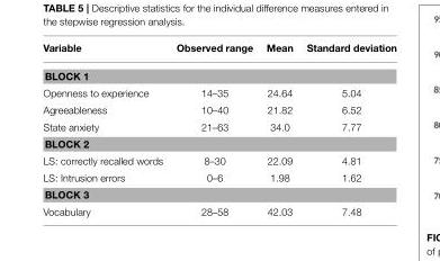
<table><thead><tr><td>Variable</td><td>Observed range</td><td>Mean</td><td>Standard deviation</td></tr></thead><tbody><tr><td colspan="4">BLOCK 1</td></tr><tr><td>Openness to experience</td><td>14–35</td><td>24.64</td><td>5.04</td></tr><tr><td>Agreeableness</td><td>10–40</td><td>21.82</td><td>6.52</td></tr><tr><td>State anxiety</td><td>21–63</td><td>34.0</td><td>7.77</td></tr><tr><td colspan="4">BLOCK 2</td></tr><tr><td>LS: correctly recalled words</td><td>8–30</td><td>22.09</td><td>4.81</td></tr><tr><td>LS: Intrusion errors</td><td>0–6</td><td>1.98</td><td>1.62</td></tr><tr><td colspan="4">BLOCK 3</td></tr><tr><td>Vocabulary</td><td>28–58</td><td>42.03</td><td>7.48</td></tr></tbody></table>